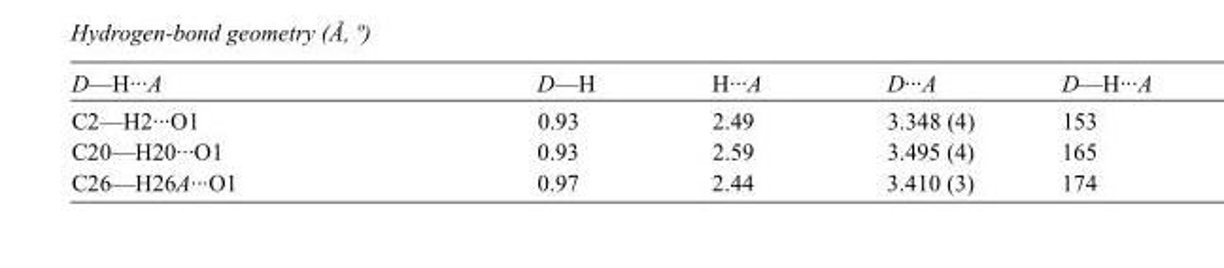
<table><tbody><tr><td>D—H···A</td><td>D—H</td><td>H···A</td><td>D···A</td><td>D—H···A</td></tr><tr><td>C2—H2···O1</td><td>0.93</td><td>2.49</td><td>3.348 (4)</td><td>153</td></tr><tr><td>C20—H20···O1</td><td>0.93</td><td>2.59</td><td>3.495 (4)</td><td>165</td></tr><tr><td>C26—H26A···O1</td><td>0.97</td><td>2.44</td><td>3.410 (3)</td><td>174</td></tr></tbody></table>